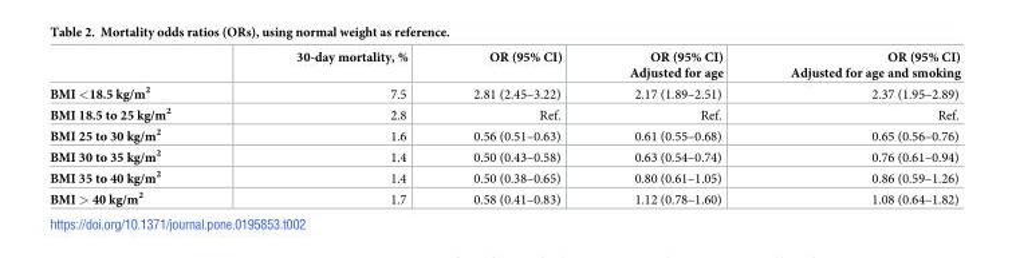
<table><thead><tr><td></td><td>30-day mortality, %</td><td>OR (95% CI)</td><td>OR (95% CI) Adjusted for age</td><td>OR (95% CI) Adjusted for age and smoking</td></tr></thead><tbody><tr><td>BMI &lt;18.5 kg/m<sup>2</sup></td><td>7.5</td><td>2.81 (2.45–3.22)</td><td>2.17 (1.89–2.51)</td><td>2.37 (1.95–2.89)</td></tr><tr><td>BMI 18.5 to 25 kg/m<sup>2</sup></td><td>2.8</td><td>Ref.</td><td>Ref.</td><td>Ref.</td></tr><tr><td>BMI 25 to 30 kg/m<sup>2</sup></td><td>1.6</td><td>0.56 (0.51–0.63)</td><td>0.61 (0.55–0.68)</td><td>0.65 (0.56–0.76)</td></tr><tr><td>BMI 30 to 35 kg/m<sup>2</sup></td><td>1.4</td><td>0.50 (0.43–0.58)</td><td>0.63 (0.54–0.74)</td><td>0.76 (0.61–0.94)</td></tr><tr><td>BMI 35 to 40 kg/m<sup>2</sup></td><td>1.4</td><td>0.50 (0.38–0.65)</td><td>0.80 (0.61–1.05)</td><td>0.86 (0.59–1.26)</td></tr><tr><td>BMI &gt; 40 kg/m<sup>2</sup></td><td>1.7</td><td>0.58 (0.41–0.83)</td><td>1.12 (0.78–1.60)</td><td>1.08 (0.64–1.82)</td></tr></tbody></table>